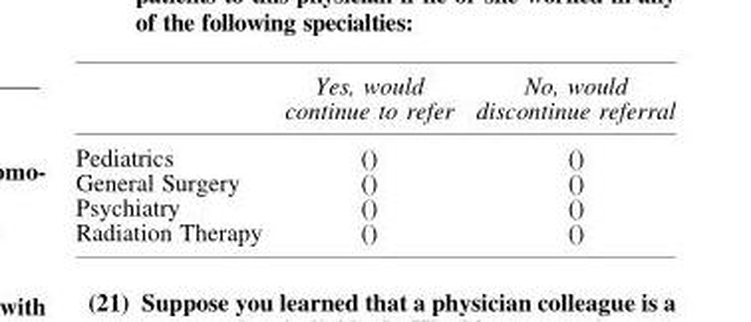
<table><thead><tr><td></td><td>Yes, would continue to refer</td><td>No, would discontinue referral</td></tr></thead><tbody><tr><td>Pediatrics</td><td>()</td><td>()</td></tr><tr><td>General Surgery</td><td>()</td><td>()</td></tr><tr><td>Psychiatry</td><td>()</td><td>()</td></tr><tr><td>Radiation Therapy</td><td>()</td><td>()</td></tr></tbody></table>